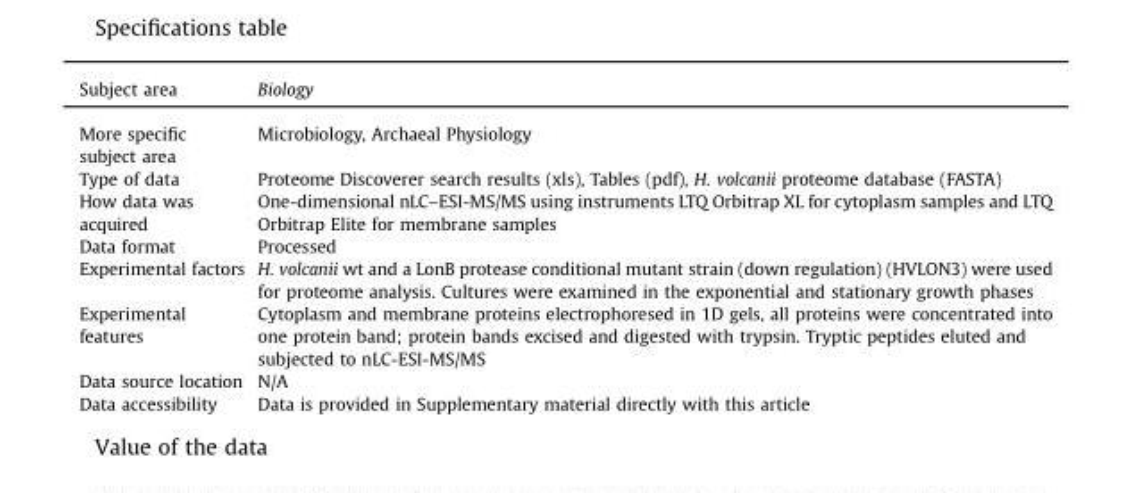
<table><thead><tr><td>Subject area</td><td>Biology</td></tr></thead><tbody><tr><td>More specific subject area</td><td>Microbiology, Archaeal Physiology</td></tr><tr><td>Type of data</td><td>Proteome Discoverer search results (xls), Tables (pdf), H. volcanii proteome database (FASTA)</td></tr><tr><td>How data was acquired</td><td>One-dimensional nLC–ESI-MS/MS using instruments LTQ Orbitrap XL for cytoplasm samples and LTQ Orbitrap Elite for membrane samples</td></tr><tr><td>Data format</td><td>Processed</td></tr><tr><td>Experimental factors</td><td>H. volcanii wt and a LonB protease conditional mutant strain (down regulation) (HVLON3) were used for proteome analysis. Cultures were examined in the exponential and stationary growth phases</td></tr><tr><td>Experimental features</td><td>Cytoplasm and membrane proteins electrophoresed in 1D gels, all proteins were concentrated into one protein band; protein bands excised and digested with trypsin. Tryptic peptides eluted and subjected to nLC-ESI-MS/MS</td></tr><tr><td>Data source location</td><td>N/A</td></tr><tr><td>Data accessibility</td><td>Data is provided in Supplementary material directly with this article</td></tr></tbody></table>